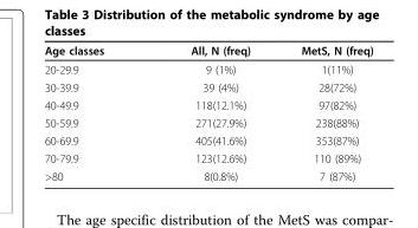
<table><thead><tr><td>Age classes</td><td>All, N (freq)</td><td>MetS, N (freq)</td></tr></thead><tbody><tr><td>20-29.9</td><td>9 (1%)</td><td>1(11%)</td></tr><tr><td>30-39.9</td><td>39 (4%)</td><td>28(72%)</td></tr><tr><td>40-49.9</td><td>118(12.1%)</td><td>97(82%)</td></tr><tr><td>50-59.9</td><td>271(27.9%)</td><td>238(88%)</td></tr><tr><td>60-69.9</td><td>405(41.6%)</td><td>353(87%)</td></tr><tr><td>70-79.9</td><td>123(12.6%)</td><td>110 (89%)</td></tr><tr><td>&gt;80</td><td>8(0.8%)</td><td>7 (87%)</td></tr></tbody></table>